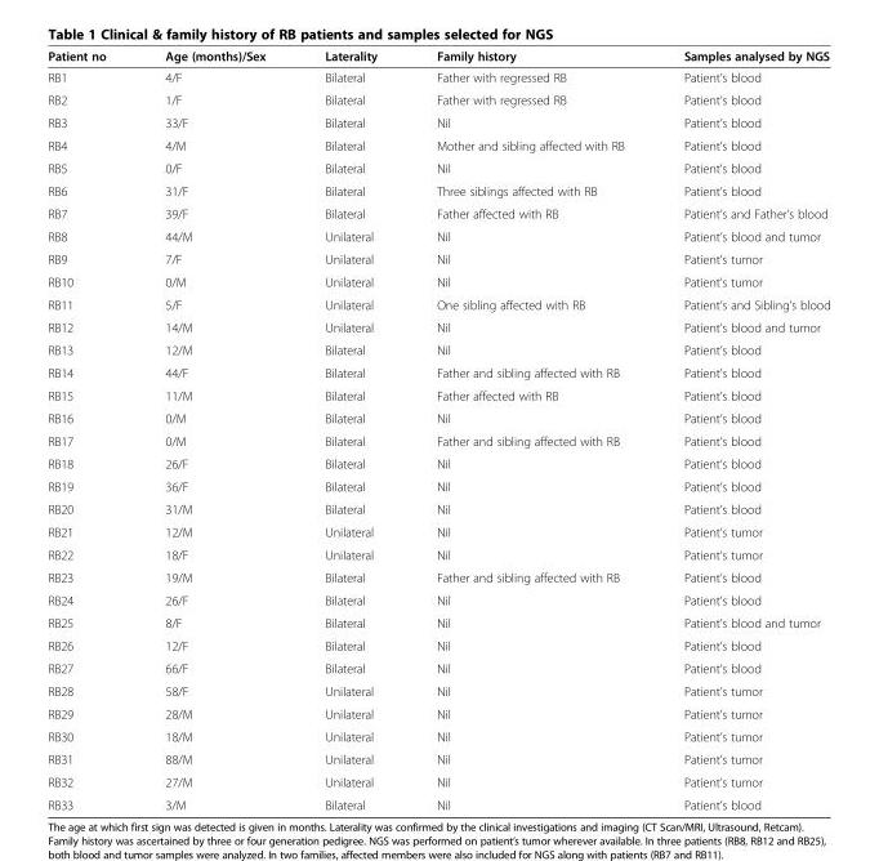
<table><thead><tr><td>Patient no</td><td>Age (months)/Sex</td><td>Laterality</td><td>Family history</td><td>Samples analysed by NGS</td></tr></thead><tbody><tr><td>RB1</td><td>4/F</td><td>Bilateral</td><td>Father with regressed RB</td><td>Patient’s blood</td></tr><tr><td>RB2</td><td>1/F</td><td>Bilateral</td><td>Father with regressed RB</td><td>Patient’s blood</td></tr><tr><td>RB3</td><td>33/F</td><td>Bilateral</td><td>Nil</td><td>Patient’s blood</td></tr><tr><td>RB4</td><td>4/M</td><td>Bilateral</td><td>Mother and sibling affected with RB</td><td>Patient’s blood</td></tr><tr><td>RB5</td><td>0/F</td><td>Bilateral</td><td>Nil</td><td>Patient’s blood</td></tr><tr><td>RB6</td><td>31/F</td><td>Bilateral</td><td>Three siblings affected with RB</td><td>Patient’s blood</td></tr><tr><td>RB7</td><td>39/F</td><td>Bilateral</td><td>Father affected with RB</td><td>Patient’s and Father’s blood</td></tr><tr><td>RB8</td><td>44/M</td><td>Unilateral</td><td>Nil</td><td>Patient’s blood and tumor</td></tr><tr><td>RB9</td><td>7/F</td><td>Unilateral</td><td>Nil</td><td>Patient’s tumor</td></tr><tr><td>RB10</td><td>0/M</td><td>Unilateral</td><td>Nil</td><td>Patient’s tumor</td></tr><tr><td>RB11</td><td>5/F</td><td>Unilateral</td><td>One sibling affected with RB</td><td>Patient’s and Sibling’s blood</td></tr><tr><td>RB12</td><td>14/M</td><td>Unilateral</td><td>Nil</td><td>Patient’s blood and tumor</td></tr><tr><td>RB13</td><td>12/M</td><td>Bilateral</td><td>Nil</td><td>Patient’s blood</td></tr><tr><td>RB14</td><td>44/F</td><td>Bilateral</td><td>Father and sibling affected with RB</td><td>Patient’s blood</td></tr><tr><td>RB15</td><td>11/M</td><td>Bilateral</td><td>Father affected with RB</td><td>Patient’s blood</td></tr><tr><td>RB16</td><td>0/M</td><td>Bilateral</td><td>Nil</td><td>Patient’s blood</td></tr><tr><td>RB17</td><td>0/M</td><td>Bilateral</td><td>Father and sibling affected with RB</td><td>Patient’s blood</td></tr><tr><td>RB18</td><td>26/F</td><td>Bilateral</td><td>Nil</td><td>Patient’s blood</td></tr><tr><td>RB19</td><td>36/F</td><td>Bilateral</td><td>Nil</td><td>Patient’s blood</td></tr><tr><td>RB20</td><td>31/M</td><td>Bilateral</td><td>Nil</td><td>Patient’s blood</td></tr><tr><td>RB21</td><td>12/M</td><td>Unilateral</td><td>Nil</td><td>Patient’s tumor</td></tr><tr><td>RB22</td><td>18/F</td><td>Unilateral</td><td>Nil</td><td>Patient’s tumor</td></tr><tr><td>RB23</td><td>19/M</td><td>Bilateral</td><td>Father and sibling affected with RB</td><td>Patient’s blood</td></tr><tr><td>RB24</td><td>26/F</td><td>Bilateral</td><td>Nil</td><td>Patient’s blood</td></tr><tr><td>RB25</td><td>8/F</td><td>Bilateral</td><td>Nil</td><td>Patient’s blood and tumor</td></tr><tr><td>RB26</td><td>12/F</td><td>Bilateral</td><td>Nil</td><td>Patient’s blood</td></tr><tr><td>RB27</td><td>66/F</td><td>Bilateral</td><td>Nil</td><td>Patient’s blood</td></tr><tr><td>RB28</td><td>58/F</td><td>Unilateral</td><td>Nil</td><td>Patient’s tumor</td></tr><tr><td>RB29</td><td>28/M</td><td>Unilateral</td><td>Nil</td><td>Patient’s tumor</td></tr><tr><td>RB30</td><td>18/M</td><td>Unilateral</td><td>Nil</td><td>Patient’s tumor</td></tr><tr><td>RB31</td><td>88/M</td><td>Unilateral</td><td>Nil</td><td>Patient’s tumor</td></tr><tr><td>RB32</td><td>27/M</td><td>Unilateral</td><td>Nil</td><td>Patient’s tumor</td></tr><tr><td>RB33</td><td>3/M</td><td>Bilateral</td><td>Nil</td><td>Patient’s blood</td></tr></tbody></table>